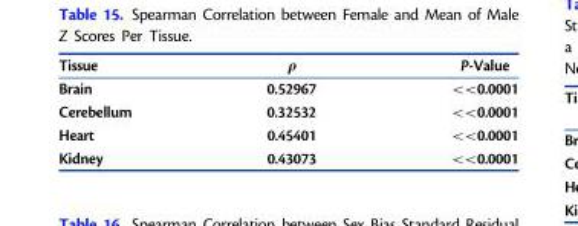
<table><thead><tr><td>Tissue</td><td>ρ</td><td>P-Value</td></tr></thead><tbody><tr><td>Brain</td><td>0.52967</td><td>&lt;&lt;0.0001</td></tr><tr><td>Cerebellum</td><td>0.32532</td><td>&lt;&lt;0.0001</td></tr><tr><td>Heart</td><td>0.45401</td><td>&lt;&lt;0.0001</td></tr><tr><td>Kidney</td><td>0.43073</td><td>&lt;&lt;0.0001</td></tr></tbody></table>